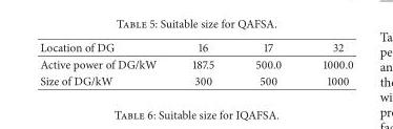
<table><thead><tr><td>Location of DG</td><td>16</td><td>17</td><td>32</td></tr></thead><tbody><tr><td>Active power of DG/kW</td><td>187.5</td><td>500.0</td><td>1000.0</td></tr><tr><td>Size of DG/kW</td><td>300</td><td>500</td><td>1000</td></tr></tbody></table>